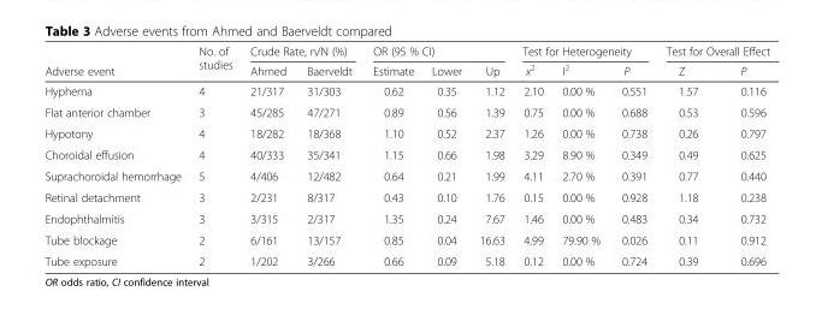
<table><thead><tr><td rowspan="2">Adverse event</td><td rowspan="2">No. of studies</td><td colspan="2">Crude Rate, n/N (%)</td><td colspan="3">OR (95 % CI)</td><td colspan="3">Test for Heterogeneity</td><td colspan="2">Test for Overall Effect</td></tr><tr><td>Ahmed</td><td>Baerveldt</td><td>Estimate</td><td>Lower</td><td>Up</td><td>x<sup>2</sup></td><td>I<sup>2</sup></td><td>P</td><td>Z</td><td>P</td></tr></thead><tbody><tr><td>Hyphema</td><td>4</td><td>21/317</td><td>31/303</td><td>0.62</td><td>0.35</td><td>1.12</td><td>2.10</td><td>0.00 %</td><td>0.551</td><td>1.57</td><td>0.116</td></tr><tr><td>Flat anterior chamber</td><td>3</td><td>45/285</td><td>47/271</td><td>0.89</td><td>0.56</td><td>1.39</td><td>0.75</td><td>0.00 %</td><td>0.688</td><td>0.53</td><td>0.596</td></tr><tr><td>Hypotony</td><td>4</td><td>18/282</td><td>18/368</td><td>1.10</td><td>0.52</td><td>2.37</td><td>1.26</td><td>0.00 %</td><td>0.738</td><td>0.26</td><td>0.797</td></tr><tr><td>Choroidal effusion</td><td>4</td><td>40/333</td><td>35/341</td><td>1.15</td><td>0.66</td><td>1.98</td><td>3.29</td><td>8.90 %</td><td>0.349</td><td>0.49</td><td>0.625</td></tr><tr><td>Suprachoroidal hemorrhage</td><td>5</td><td>4/406</td><td>12/482</td><td>0.64</td><td>0.21</td><td>1.99</td><td>4.11</td><td>2.70 %</td><td>0.391</td><td>0.77</td><td>0.440</td></tr><tr><td>Retinal detachment</td><td>3</td><td>2/231</td><td>8/317</td><td>0.43</td><td>0.10</td><td>1.76</td><td>0.15</td><td>0.00 %</td><td>0.928</td><td>1.18</td><td>0.238</td></tr><tr><td>Endophthalmitis</td><td>3</td><td>3/315</td><td>2/317</td><td>1.35</td><td>0.24</td><td>7.67</td><td>1.46</td><td>0.00 %</td><td>0.483</td><td>0.34</td><td>0.732</td></tr><tr><td>Tube blockage</td><td>2</td><td>6/161</td><td>13/157</td><td>0.85</td><td>0.04</td><td>16.63</td><td>4.99</td><td>79.90 %</td><td>0.026</td><td>0.11</td><td>0.912</td></tr><tr><td>Tube exposure</td><td>2</td><td>1/202</td><td>3/266</td><td>0.66</td><td>0.09</td><td>5.18</td><td>0.12</td><td>0.00 %</td><td>0.724</td><td>0.39</td><td>0.696</td></tr></tbody></table>